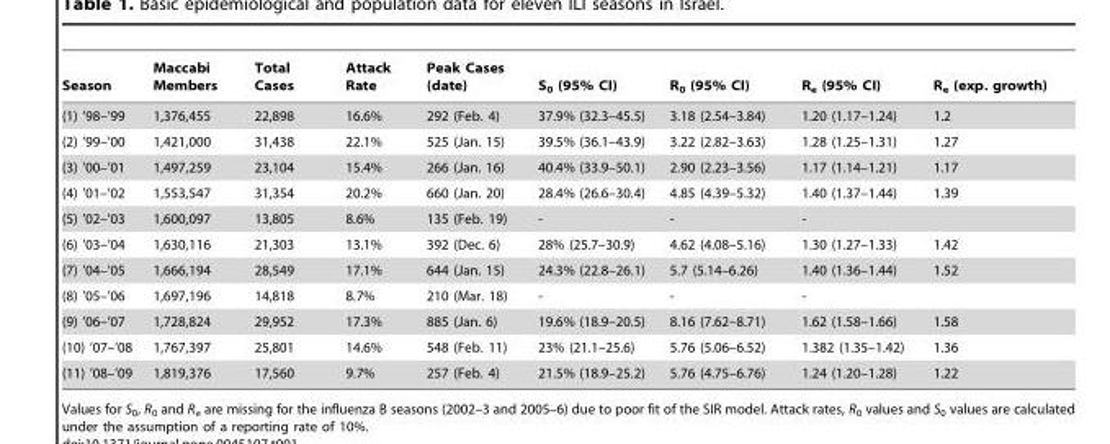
<table><thead><tr><td>Season</td><td>Maccabi Members</td><td>Total Cases</td><td>Attack Rate</td><td>Peak Cases (date)</td><td>S<sub>0</sub> (95% CI)</td><td>R<sub>0</sub> (95% CI)</td><td>R<sub>e</sub> (95% CI)</td><td>R<sub>e</sub> (exp. growth)</td></tr></thead><tbody><tr><td>(1) ’98–’99</td><td>1,376,455</td><td>22,898</td><td>16.6%</td><td>292 (Feb. 4)</td><td>37.9% (32.3–45.5)</td><td>3.18 (2.54–3.84)</td><td>1.20 (1.17–1.24)</td><td>1.2</td></tr><tr><td>(2) ’99–’00</td><td>1,421,000</td><td>31,438</td><td>22.1%</td><td>525 (Jan. 15)</td><td>39.5% (36.1–43.9)</td><td>3.22 (2.82–3.63)</td><td>1.28 (1.25–1.31)</td><td>1.27</td></tr><tr><td>(3) ’00–’01</td><td>1,497,259</td><td>23,104</td><td>15.4%</td><td>266 (Jan. 16)</td><td>40.4% (33.9–50.1)</td><td>2.90 (2.23–3.56)</td><td>1.17 (1.14–1.21)</td><td>1.17</td></tr><tr><td>(4) ’01–’02</td><td>1,553,547</td><td>31,354</td><td>20.2%</td><td>660 (Jan. 20)</td><td>28.4% (26.6–30.4)</td><td>4.85 (4.39–5.32)</td><td>1.40 (1.37–1.44)</td><td>1.39</td></tr><tr><td>(5) ’02–’03</td><td>1,600,097</td><td>13,805</td><td>8.6%</td><td>135 (Feb. 19)</td><td>-</td><td>-</td><td>-</td><td></td></tr><tr><td>(6) ’03–’04</td><td>1,630,116</td><td>21,303</td><td>13.1%</td><td>392 (Dec. 6)</td><td>28% (25.7–30.9)</td><td>4.62 (4.08–5.16)</td><td>1.30 (1.27–1.33)</td><td>1.42</td></tr><tr><td>(7) ’04–’05</td><td>1,666,194</td><td>28,549</td><td>17.1%</td><td>644 (Jan. 15)</td><td>24.3% (22.8–26.1)</td><td>5.7 (5.14–6.26)</td><td>1.40 (1.36–1.44)</td><td>1.52</td></tr><tr><td>(8) ’05–’06</td><td>1,697,196</td><td>14,818</td><td>8.7%</td><td>210 (Mar. 18)</td><td>-</td><td>-</td><td>-</td><td></td></tr><tr><td>(9) ’06–’07</td><td>1,728,824</td><td>29,952</td><td>17.3%</td><td>885 (Jan. 6)</td><td>19.6% (18.9–20.5)</td><td>8.16 (7.62–8.71)</td><td>1.62 (1.58–1.66)</td><td>1.58</td></tr><tr><td>(10) ’07–’08</td><td>1,767,397</td><td>25,801</td><td>14.6%</td><td>548 (Feb. 11)</td><td>23% (21.1–25.6)</td><td>5.76 (5.06–6.52)</td><td>1.382 (1.35–1.42)</td><td>1.36</td></tr><tr><td>(11) ’08–’09</td><td>1,819,376</td><td>17,560</td><td>9.7%</td><td>257 (Feb. 4)</td><td>21.5% (18.9–25.2)</td><td>5.76 (4.75–6.76)</td><td>1.24 (1.20–1.28)</td><td>1.22</td></tr></tbody></table>